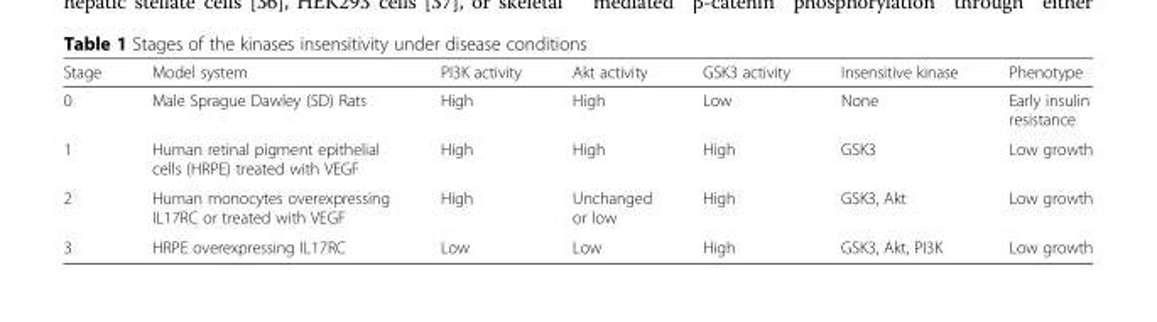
<table><thead><tr><td>Stage</td><td>Model system</td><td>PI3K activity</td><td>Akt activity</td><td>GSK3 activity</td><td>Insensitive kinase</td><td>Phenotype</td></tr></thead><tbody><tr><td>0</td><td>Male Sprague Dawley (SD) Rats</td><td>High</td><td>High</td><td>Low</td><td>None</td><td>Early insulin resistance</td></tr><tr><td>1</td><td>Human retinal pigment epithelial cells (HRPE) treated with VEGF</td><td>High</td><td>High</td><td>High</td><td>GSK3</td><td>Low growth</td></tr><tr><td>2</td><td>Human monocytes overexpressing IL17RC or treated with VEGF</td><td>High</td><td>Unchanged or low</td><td>High</td><td>GSK3, Akt</td><td>Low growth</td></tr><tr><td>3</td><td>HRPE overexpressing IL17RC</td><td>Low</td><td>Low</td><td>High</td><td>GSK3, Akt, PI3K</td><td>Low growth</td></tr></tbody></table>